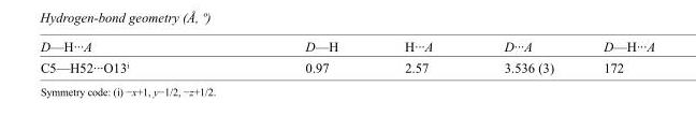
<table><tbody><tr><td>D—H···A</td><td>D—H</td><td>H···A</td><td>D···A</td><td>D—H···A</td></tr><tr><td>C5—H52···O13<sup>i</sup></td><td>0.97</td><td>2.57</td><td>3.536 (3)</td><td>172</td></tr></tbody></table>